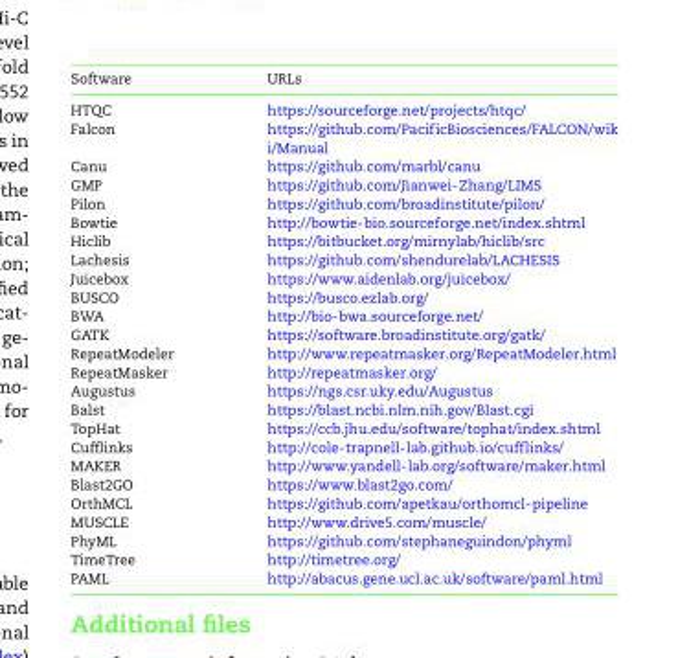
<table><thead><tr><td>Software</td><td>URLs</td></tr></thead><tbody><tr><td>HTQC</td><td>https://sourceforge.net/projects/htqc/</td></tr><tr><td>Falcon</td><td>https://github.com/PacificBiosciences/FALCON/wik i/Manual</td></tr><tr><td>Canu</td><td>https://github.com/marbl/canu</td></tr><tr><td>GMP</td><td>https://github.com/Jianwei-Zhang/LIMS</td></tr><tr><td>Pilon</td><td>https://github.com/broadinstitute/pilon/</td></tr><tr><td>Bowtie</td><td>http://bowtie-bio.sourceforge.net/index.shtml</td></tr><tr><td>Hiclib</td><td>https://bitbucket.org/mirnylab/hiclib/src</td></tr><tr><td>Lachesis</td><td>https://github.com/shendurelab/LACHESIS</td></tr><tr><td>Juicebox</td><td>https://www.aidenlab.org/juicebox/</td></tr><tr><td>BUSCO</td><td>https://busco.ezlab.org/</td></tr><tr><td>BWA</td><td>http://bio-bwa.sourceforge.net/</td></tr><tr><td>GATK</td><td>https://software.broadinstitute.org/gatk/</td></tr><tr><td>RepeatModeler</td><td>http://www.repeatmasker.org/RepeatModeler.html</td></tr><tr><td>RepeatMasker</td><td>http://repeatmasker.org/</td></tr><tr><td>Augustus</td><td>https://ngs.csr.uky.edu/Augustus</td></tr><tr><td>Balst</td><td>https://blast.ncbi.nlm.nih.gov/Blast.cgi</td></tr><tr><td>TopHat</td><td>https://ccb.jhu.edu/software/tophat/index.shtml</td></tr><tr><td>Cufflinks</td><td>http://cole-trapnell-lab.github.io/cufflinks/</td></tr><tr><td>MAKER</td><td>http://www.yandell-lab.org/software/maker.html</td></tr><tr><td>Blast2GO</td><td>https://www.blast2go.com/</td></tr><tr><td>OrthMCL</td><td>https://github.com/apetkau/orthomcl-pipeline</td></tr><tr><td>MUSCLE</td><td>http://www.drive5.com/muscle/</td></tr><tr><td>PhyML</td><td>https://github.com/stephaneguindon/phyml</td></tr><tr><td>TimeTree</td><td>http://timetree.org/</td></tr><tr><td>PAML</td><td>http://abacus.gene.ucl.ac.uk/software/paml.html</td></tr></tbody></table>